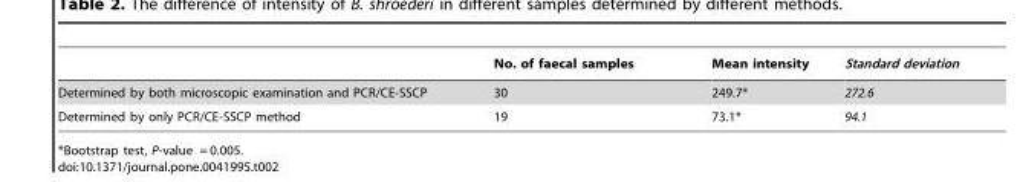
<table><thead><tr><td></td><td>No. of faecal samples</td><td>Mean intensity</td><td>Standard deviation</td></tr></thead><tbody><tr><td>Determined by both microscopic examination and PCR/CE-SSCP</td><td>30</td><td>249.7*</td><td>272.6</td></tr><tr><td>Determined by only PCR/CE-SSCP method</td><td>19</td><td>73.1*</td><td>94.1</td></tr></tbody></table>